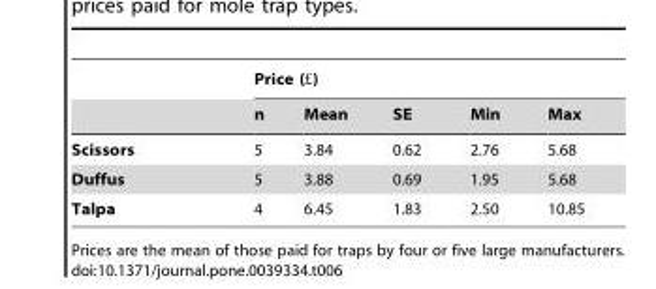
<table><thead><tr><td rowspan="2"></td><td colspan="5">Price (£)</td></tr><tr><td>n</td><td>Mean</td><td>SE</td><td>Min</td><td>Max</td></tr></thead><tbody><tr><td>Scissors</td><td>5</td><td>3.84</td><td>0.62</td><td>2.76</td><td>5.68</td></tr><tr><td>Duffus</td><td>5</td><td>3.88</td><td>0.69</td><td>1.95</td><td>5.68</td></tr><tr><td>Talpa</td><td>4</td><td>6.45</td><td>1.83</td><td>2.50</td><td>10.85</td></tr></tbody></table>